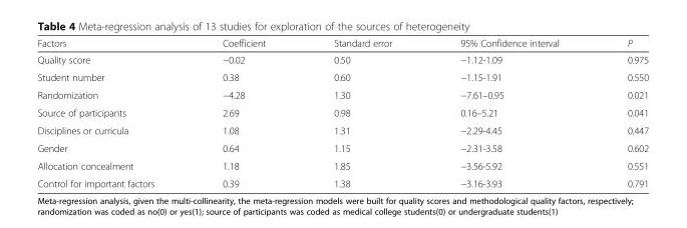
<table><thead><tr><td>Factors</td><td>Coefficient</td><td>Standard error</td><td>95% Confidence interval</td><td>P</td></tr></thead><tbody><tr><td>Quality score</td><td>−0.02</td><td>0.50</td><td>−1.12-1.09</td><td>0.975</td></tr><tr><td>Student number</td><td>0.38</td><td>0.60</td><td>−1.15-1.91</td><td>0.550</td></tr><tr><td>Randomization</td><td>−4.28</td><td>1.30</td><td>−7.61–0.95</td><td>0.021</td></tr><tr><td>Source of participants</td><td>2.69</td><td>0.98</td><td>0.16–5.21</td><td>0.041</td></tr><tr><td>Disciplines or curricula</td><td>1.08</td><td>1.31</td><td>−2.29-4.45</td><td>0.447</td></tr><tr><td>Gender</td><td>0.64</td><td>1.15</td><td>−2.31-3.58</td><td>0.602</td></tr><tr><td>Allocation concealment</td><td>1.18</td><td>1.85</td><td>−3.56-5.92</td><td>0.551</td></tr><tr><td>Control for important factors</td><td>0.39</td><td>1.38</td><td>−3.16-3.93</td><td>0.791</td></tr></tbody></table>